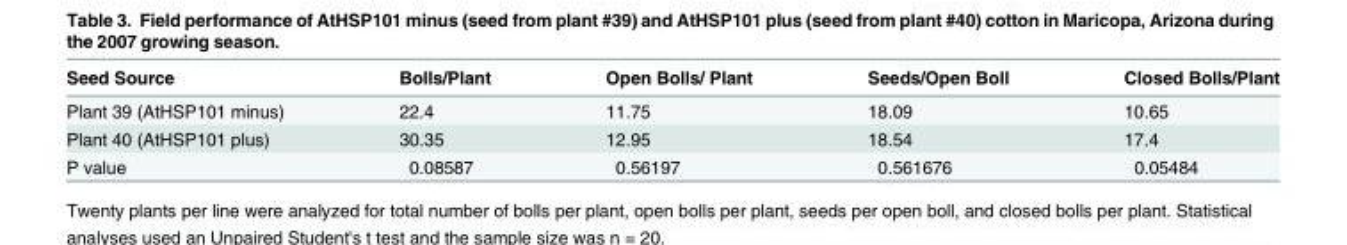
<table><thead><tr><td>Seed Source</td><td>Bolls/Plant</td><td>Open Bolls/ Plant</td><td>Seeds/Open Boll</td><td>Closed Bolls/Plant</td></tr></thead><tbody><tr><td>Plant 39 (AtHSP101 minus)</td><td>22.4</td><td>11.75</td><td>18.09</td><td>10.65</td></tr><tr><td>Plant 40 (AtHSP101 plus)</td><td>30.35</td><td>12.95</td><td>18.54</td><td>17.4</td></tr><tr><td>P value</td><td>0.08587</td><td>0.56197</td><td>0.561676</td><td>0.05484</td></tr></tbody></table>